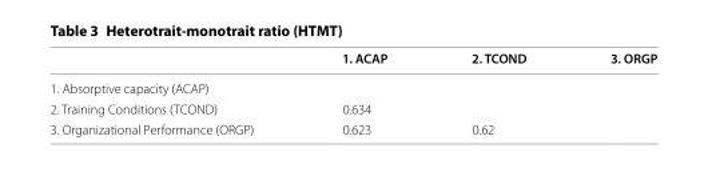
<table><thead><tr><td></td><td>1. ACAP</td><td>2. TCOND</td><td>3. ORGP</td></tr></thead><tbody><tr><td colspan="4">1. Absorptive capacity (ACAP)</td></tr><tr><td>2. Training Conditions (TCOND)</td><td>0.634</td><td></td><td></td></tr><tr><td>3. Organizational Performance (ORGP)</td><td>0.623</td><td>0.62</td><td></td></tr></tbody></table>